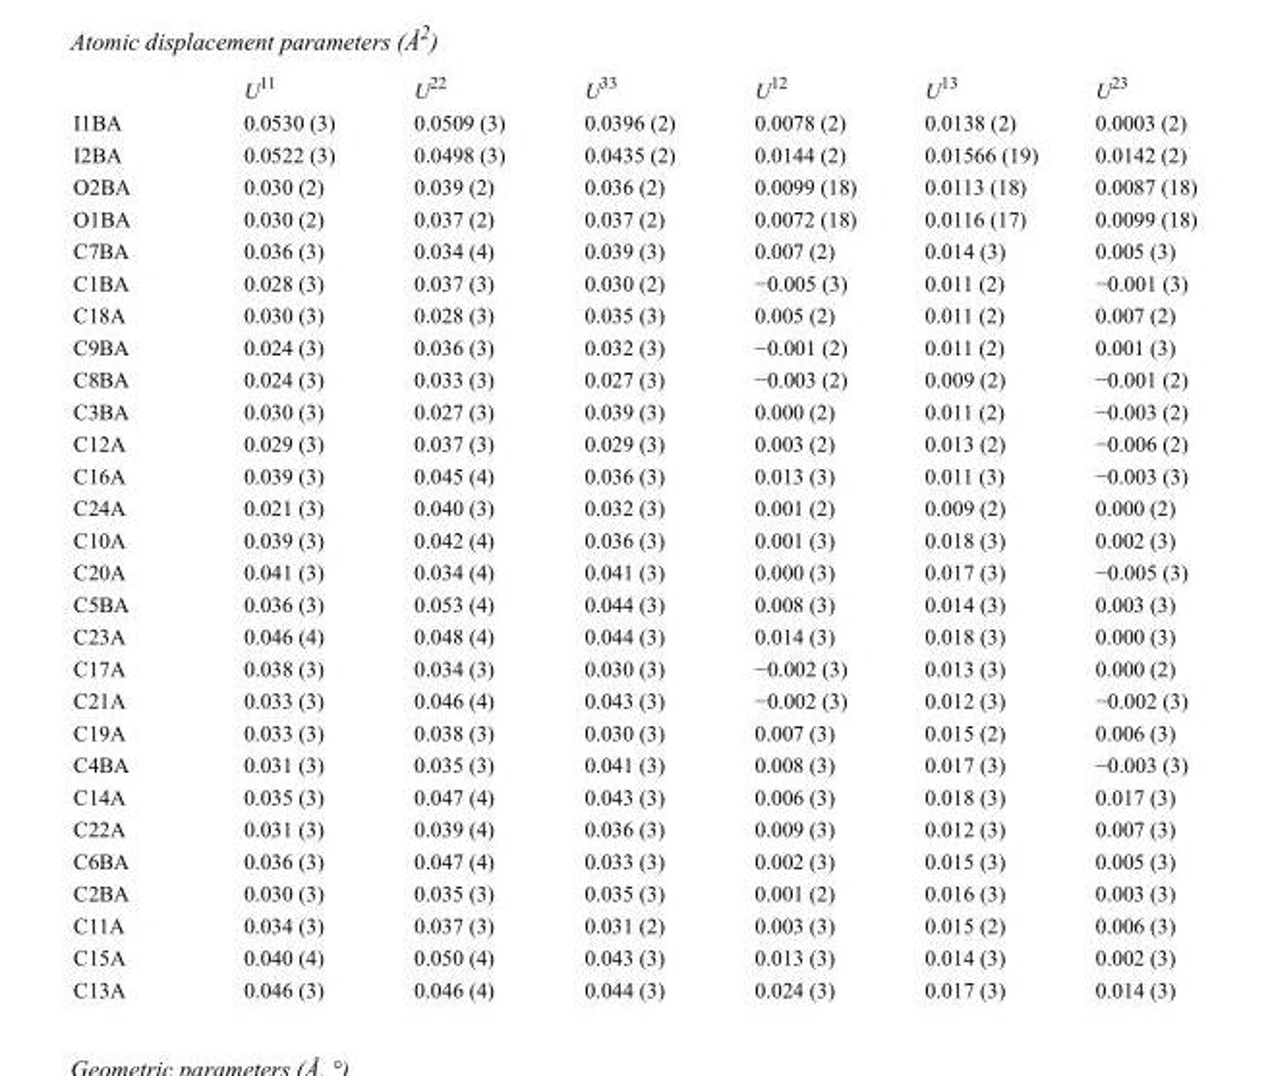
<table><thead><tr><td></td><td>U<sup>11</sup></td><td>U<sup>22</sup></td><td>U<sup>33</sup></td><td>U<sup>12</sup></td><td>U<sup>13</sup></td><td>U<sup>23</sup></td></tr></thead><tbody><tr><td>I1BA</td><td>0.0530 (3)</td><td>0.0509 (3)</td><td>0.0396 (2)</td><td>0.0078 (2)</td><td>0.0138 (2)</td><td>0.0003 (2)</td></tr><tr><td>I2BA</td><td>0.0522 (3)</td><td>0.0498 (3)</td><td>0.0435 (2)</td><td>0.0144 (2)</td><td>0.01566 (19)</td><td>0.0142 (2)</td></tr><tr><td>O2BA</td><td>0.030 (2)</td><td>0.039 (2)</td><td>0.036 (2)</td><td>0.0099 (18)</td><td>0.0113 (18)</td><td>0.0087 (18)</td></tr><tr><td>O1BA</td><td>0.030 (2)</td><td>0.037 (2)</td><td>0.037 (2)</td><td>0.0072 (18)</td><td>0.0116 (17)</td><td>0.0099 (18)</td></tr><tr><td>C7BA</td><td>0.036 (3)</td><td>0.034 (4)</td><td>0.039 (3)</td><td>0.007 (2)</td><td>0.014 (3)</td><td>0.005 (3)</td></tr><tr><td>C1BA</td><td>0.028 (3)</td><td>0.037 (3)</td><td>0.030 (2)</td><td>−0.005 (3)</td><td>0.011 (2)</td><td>−0.001 (3)</td></tr><tr><td>C18A</td><td>0.030 (3)</td><td>0.028 (3)</td><td>0.035 (3)</td><td>0.005 (2)</td><td>0.011 (2)</td><td>0.007 (2)</td></tr><tr><td>C9BA</td><td>0.024 (3)</td><td>0.036 (3)</td><td>0.032 (3)</td><td>−0.001 (2)</td><td>0.011 (2)</td><td>0.001 (3)</td></tr><tr><td>C8BA</td><td>0.024 (3)</td><td>0.033 (3)</td><td>0.027 (3)</td><td>−0.003 (2)</td><td>0.009 (2)</td><td>−0.001 (2)</td></tr><tr><td>C3BA</td><td>0.030 (3)</td><td>0.027 (3)</td><td>0.039 (3)</td><td>0.000 (2)</td><td>0.011 (2)</td><td>−0.003 (2)</td></tr><tr><td>C12A</td><td>0.029 (3)</td><td>0.037 (3)</td><td>0.029 (3)</td><td>0.003 (2)</td><td>0.013 (2)</td><td>−0.006 (2)</td></tr><tr><td>C16A</td><td>0.039 (3)</td><td>0.045 (4)</td><td>0.036 (3)</td><td>0.013 (3)</td><td>0.011 (3)</td><td>−0.003 (3)</td></tr><tr><td>C24A</td><td>0.021 (3)</td><td>0.040 (3)</td><td>0.032 (3)</td><td>0.001 (2)</td><td>0.009 (2)</td><td>0.000 (2)</td></tr><tr><td>C10A</td><td>0.039 (3)</td><td>0.042 (4)</td><td>0.036 (3)</td><td>0.001 (3)</td><td>0.018 (3)</td><td>0.002 (3)</td></tr><tr><td>C20A</td><td>0.041 (3)</td><td>0.034 (4)</td><td>0.041 (3)</td><td>0.000 (3)</td><td>0.017 (3)</td><td>−0.005 (3)</td></tr><tr><td>C5BA</td><td>0.036 (3)</td><td>0.053 (4)</td><td>0.044 (3)</td><td>0.008 (3)</td><td>0.014 (3)</td><td>0.003 (3)</td></tr><tr><td>C23A</td><td>0.046 (4)</td><td>0.048 (4)</td><td>0.044 (3)</td><td>0.014 (3)</td><td>0.018 (3)</td><td>0.000 (3)</td></tr><tr><td>C17A</td><td>0.038 (3)</td><td>0.034 (3)</td><td>0.030 (3)</td><td>−0.002 (3)</td><td>0.013 (3)</td><td>0.000 (2)</td></tr><tr><td>C21A</td><td>0.033 (3)</td><td>0.046 (4)</td><td>0.043 (3)</td><td>−0.002 (3)</td><td>0.012 (3)</td><td>−0.002 (3)</td></tr><tr><td>C19A</td><td>0.033 (3)</td><td>0.038 (3)</td><td>0.030 (3)</td><td>0.007 (3)</td><td>0.015 (2)</td><td>0.006 (3)</td></tr><tr><td>C4BA</td><td>0.031 (3)</td><td>0.035 (3)</td><td>0.041 (3)</td><td>0.008 (3)</td><td>0.017 (3)</td><td>−0.003 (3)</td></tr><tr><td>C14A</td><td>0.035 (3)</td><td>0.047 (4)</td><td>0.043 (3)</td><td>0.006 (3)</td><td>0.018 (3)</td><td>0.017 (3)</td></tr><tr><td>C22A</td><td>0.031 (3)</td><td>0.039 (4)</td><td>0.036 (3)</td><td>0.009 (3)</td><td>0.012 (3)</td><td>0.007 (3)</td></tr><tr><td>C6BA</td><td>0.036 (3)</td><td>0.047 (4)</td><td>0.033 (3)</td><td>0.002 (3)</td><td>0.015 (3)</td><td>0.005 (3)</td></tr><tr><td>C2BA</td><td>0.030 (3)</td><td>0.035 (3)</td><td>0.035 (3)</td><td>0.001 (2)</td><td>0.016 (3)</td><td>0.003 (3)</td></tr><tr><td>C11A</td><td>0.034 (3)</td><td>0.037 (3)</td><td>0.031 (2)</td><td>0.003 (3)</td><td>0.015 (2)</td><td>0.006 (3)</td></tr><tr><td>C15A</td><td>0.040 (4)</td><td>0.050 (4)</td><td>0.043 (3)</td><td>0.013 (3)</td><td>0.014 (3)</td><td>0.002 (3)</td></tr><tr><td>C13A</td><td>0.046 (3)</td><td>0.046 (4)</td><td>0.044 (3)</td><td>0.024 (3)</td><td>0.017 (3)</td><td>0.014 (3)</td></tr></tbody></table>